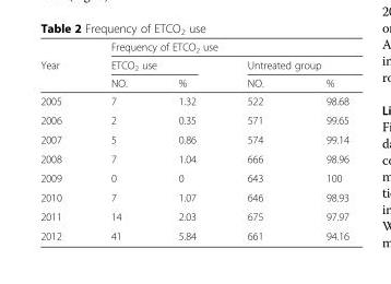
<table><thead><tr><td rowspan="3">Year</td><td colspan="4">Frequency of ETCO<sub>2</sub> use</td></tr><tr><td colspan="2">ETCO<sub>2</sub> use</td><td colspan="2">Untreated group</td></tr><tr><td>NO.</td><td>%</td><td>NO.</td><td>%</td></tr></thead><tbody><tr><td>2005</td><td>7</td><td>1.32</td><td>522</td><td>98.68</td></tr><tr><td>2006</td><td>2</td><td>0.35</td><td>571</td><td>99.65</td></tr><tr><td>2007</td><td>5</td><td>0.86</td><td>574</td><td>99.14</td></tr><tr><td>2008</td><td>7</td><td>1.04</td><td>666</td><td>98.96</td></tr><tr><td>2009</td><td>0</td><td>0</td><td>643</td><td>100</td></tr><tr><td>2010</td><td>7</td><td>1.07</td><td>646</td><td>98.93</td></tr><tr><td>2011</td><td>14</td><td>2.03</td><td>675</td><td>97.97</td></tr><tr><td>2012</td><td>41</td><td>5.84</td><td>661</td><td>94.16</td></tr></tbody></table>